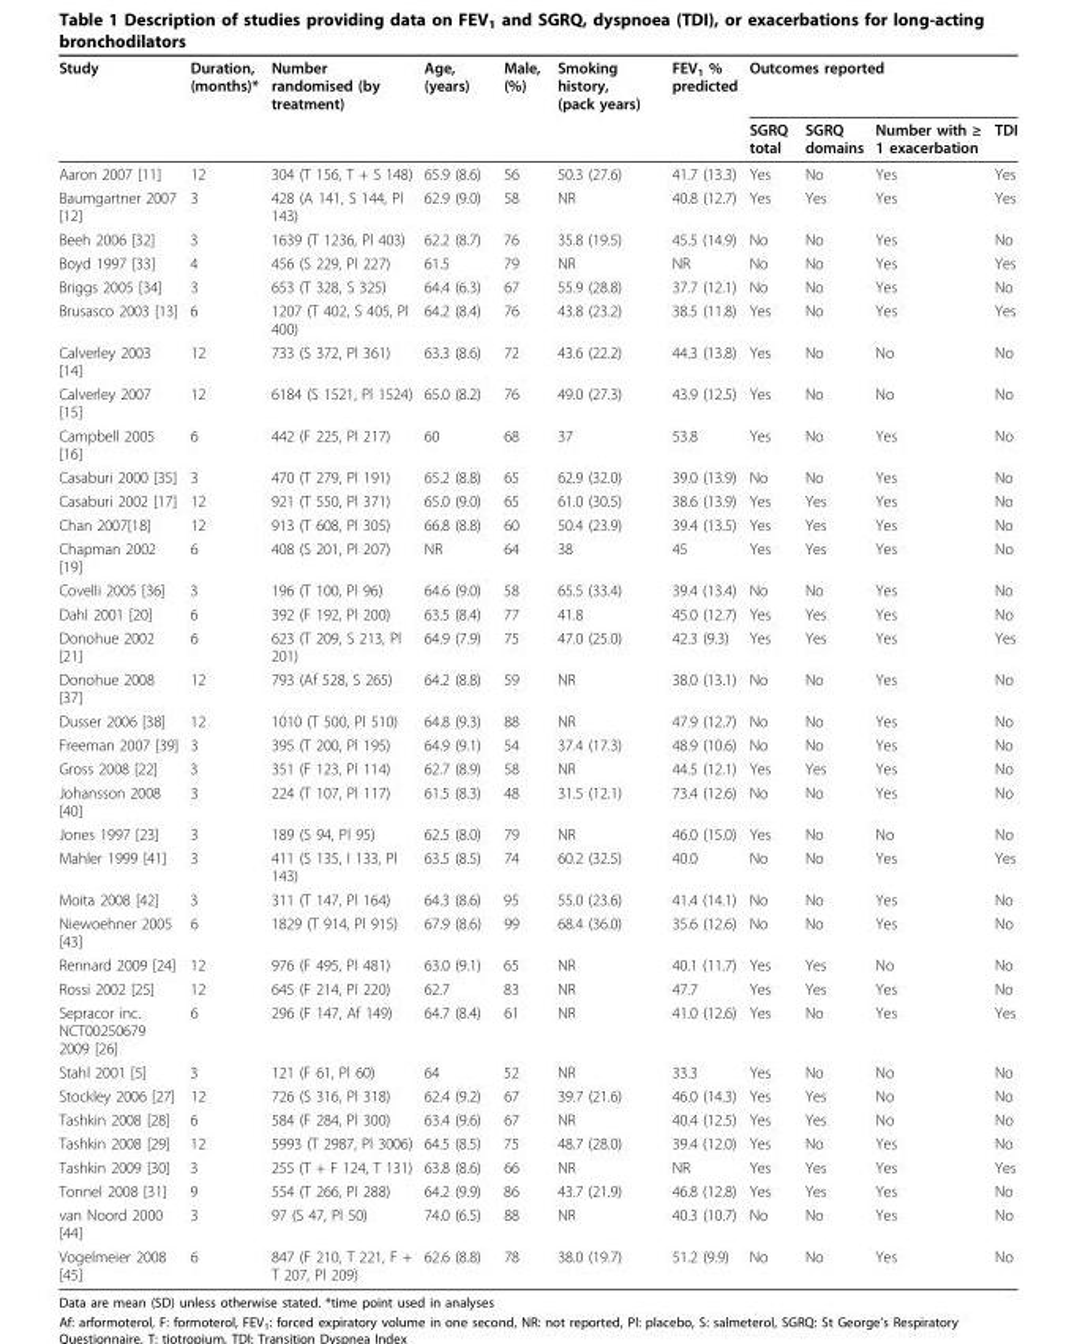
<table><thead><tr><td rowspan="2">Study</td><td rowspan="2">Duration, (months)*</td><td rowspan="2">Number randomised (by treatment)</td><td rowspan="2">Age, (years)</td><td rowspan="2">Male, (%)</td><td rowspan="2">Smoking history, (pack years)</td><td rowspan="2">FEV<sub>1</sub> % predicted</td><td colspan="4">Outcomes reported</td></tr><tr><td>SGRQ total</td><td>SGRQ domains</td><td>Number with ≥ 1 exacerbation</td><td>TDI</td></tr></thead><tbody><tr><td>Aaron 2007 [11]</td><td>12</td><td>304 (T 156, T + S 148)</td><td>65.9 (8.6)</td><td>56</td><td>50.3 (27.6)</td><td>41.7 (13.3)</td><td>Yes</td><td>No</td><td>Yes</td><td>Yes</td></tr><tr><td>Baumgartner 2007 [12]</td><td>3</td><td>428 (A 141, S 144, Pl 143)</td><td>62.9 (9.0)</td><td>58</td><td>NR</td><td>40.8 (12.7)</td><td>Yes</td><td>Yes</td><td>Yes</td><td>Yes</td></tr><tr><td>Beeh 2006 [32]</td><td>3</td><td>1639 (T 1236, Pl 403)</td><td>62.2 (8.7)</td><td>76</td><td>35.8 (19.5)</td><td>45.5 (14.9)</td><td>No</td><td>No</td><td>Yes</td><td>No</td></tr><tr><td>Boyd 1997 [33]</td><td>4</td><td>456 (S 229, Pl 227)</td><td>61.5</td><td>79</td><td>NR</td><td>NR</td><td>No</td><td>No</td><td>Yes</td><td>Yes</td></tr><tr><td>Briggs 2005 [34]</td><td>3</td><td>653 (T 328, S 325)</td><td>64.4 (6.3)</td><td>67</td><td>55.9 (28.8)</td><td>37.7 (12.1)</td><td>No</td><td>No</td><td>Yes</td><td>No</td></tr><tr><td>Brusasco 2003 [13]</td><td>6</td><td>1207 (T 402, S 405, Pl 400)</td><td>64.2 (8.4)</td><td>76</td><td>43.8 (23.2)</td><td>38.5 (11.8)</td><td>Yes</td><td>No</td><td>Yes</td><td>Yes</td></tr><tr><td>Calverley 2003 [14]</td><td>12</td><td>733 (S 372, Pl 361)</td><td>63.3 (8.6)</td><td>72</td><td>43.6 (22.2)</td><td>44.3 (13.8)</td><td>Yes</td><td>No</td><td>No</td><td>No</td></tr><tr><td>Calverley 2007 [15]</td><td>12</td><td>6184 (S 1521, Pl 1524)</td><td>65.0 (8.2)</td><td>76</td><td>49.0 (27.3)</td><td>43.9 (12.5)</td><td>Yes</td><td>No</td><td>No</td><td>No</td></tr><tr><td>Campbell 2005 [16]</td><td>6</td><td>442 (F 225, Pl 217)</td><td>60</td><td>68</td><td>37</td><td>53.8</td><td>Yes</td><td>No</td><td>Yes</td><td>No</td></tr><tr><td>Casaburi 2000 [35]</td><td>3</td><td>470 (T 279, Pl 191)</td><td>65.2 (8.8)</td><td>65</td><td>62.9 (32.0)</td><td>39.0 (13.9)</td><td>No</td><td>No</td><td>Yes</td><td>No</td></tr><tr><td>Casaburi 2002 [17]</td><td>12</td><td>921 (T 550, Pl 371)</td><td>65.0 (9.0)</td><td>65</td><td>61.0 (30.5)</td><td>38.6 (13.9)</td><td>Yes</td><td>Yes</td><td>Yes</td><td>No</td></tr><tr><td>Chan 2007[18]</td><td>12</td><td>913 (T 608, Pl 305)</td><td>66.8 (8.8)</td><td>60</td><td>50.4 (23.9)</td><td>39.4 (13.5)</td><td>Yes</td><td>Yes</td><td>Yes</td><td>No</td></tr><tr><td>Chapman 2002 [19]</td><td>6</td><td>408 (S 201, Pl 207)</td><td>NR</td><td>64</td><td>38</td><td>45</td><td>Yes</td><td>Yes</td><td>Yes</td><td>No</td></tr><tr><td>Covelli 2005 [36]</td><td>3</td><td>196 (T 100, Pl 96)</td><td>64.6 (9.0)</td><td>58</td><td>65.5 (33.4)</td><td>39.4 (13.4)</td><td>No</td><td>No</td><td>Yes</td><td>No</td></tr><tr><td>Dahl 2001 [20]</td><td>6</td><td>392 (F 192, Pl 200)</td><td>63.5 (8.4)</td><td>77</td><td>41.8</td><td>45.0 (12.7)</td><td>Yes</td><td>Yes</td><td>Yes</td><td>No</td></tr><tr><td>Donohue 2002 [21]</td><td>6</td><td>623 (T 209, S 213, Pl 201)</td><td>64.9 (7.9)</td><td>75</td><td>47.0 (25.0)</td><td>42.3 (9.3)</td><td>Yes</td><td>Yes</td><td>Yes</td><td>Yes</td></tr><tr><td>Donohue 2008 [37]</td><td>12</td><td>793 (Af 528, S 265)</td><td>64.2 (8.8)</td><td>59</td><td>NR</td><td>38.0 (13.1)</td><td>No</td><td>No</td><td>Yes</td><td>No</td></tr><tr><td>Dusser 2006 [38]</td><td>12</td><td>1010 (T 500, Pl 510)</td><td>64.8 (9.3)</td><td>88</td><td>NR</td><td>47.9 (12.7)</td><td>No</td><td>No</td><td>Yes</td><td>No</td></tr><tr><td>Freeman 2007 [39]</td><td>3</td><td>395 (T 200, Pl 195)</td><td>64.9 (9.1)</td><td>54</td><td>37.4 (17.3)</td><td>48.9 (10.6)</td><td>No</td><td>No</td><td>Yes</td><td>No</td></tr><tr><td>Gross 2008 [22]</td><td>3</td><td>351 (F 123, Pl 114)</td><td>62.7 (8.9)</td><td>58</td><td>NR</td><td>44.5 (12.1)</td><td>Yes</td><td>Yes</td><td>Yes</td><td>No</td></tr><tr><td>Johansson 2008 [40]</td><td>3</td><td>224 (T 107, Pl 117)</td><td>61.5 (8.3)</td><td>48</td><td>31.5 (12.1)</td><td>73.4 (12.6)</td><td>No</td><td>No</td><td>Yes</td><td>No</td></tr><tr><td>Jones 1997 [23]</td><td>3</td><td>189 (S 94, Pl 95)</td><td>62.5 (8.0)</td><td>79</td><td>NR</td><td>46.0 (15.0)</td><td>Yes</td><td>No</td><td>No</td><td>No</td></tr><tr><td>Mahler 1999 [41]</td><td>3</td><td>411 (S 135, I 133, Pl 143)</td><td>63.5 (8.5)</td><td>74</td><td>60.2 (32.5)</td><td>40.0</td><td>No</td><td>No</td><td>Yes</td><td>Yes</td></tr><tr><td>Moita 2008 [42]</td><td>3</td><td>311 (T 147, Pl 164)</td><td>64.3 (8.6)</td><td>95</td><td>55.0 (23.6)</td><td>41.4 (14.1)</td><td>No</td><td>No</td><td>Yes</td><td>No</td></tr><tr><td>Niewoehner 2005 [43]</td><td>6</td><td>1829 (T 914, Pl 915)</td><td>67.9 (8.6)</td><td>99</td><td>68.4 (36.0)</td><td>35.6 (12.6)</td><td>No</td><td>No</td><td>Yes</td><td>No</td></tr><tr><td>Rennard 2009 [24]</td><td>12</td><td>976 (F 495, Pl 481)</td><td>63.0 (9.1)</td><td>65</td><td>NR</td><td>40.1 (11.7)</td><td>Yes</td><td>Yes</td><td>No</td><td>No</td></tr><tr><td>Rossi 2002 [25]</td><td>12</td><td>645 (F 214, Pl 220)</td><td>62.7</td><td>83</td><td>NR</td><td>47.7</td><td>Yes</td><td>Yes</td><td>Yes</td><td>No</td></tr><tr><td>Sepracor inc. NCT00250679 2009 [26]</td><td>6</td><td>296 (F 147, Af 149)</td><td>64.7 (8.4)</td><td>61</td><td>NR</td><td>41.0 (12.6)</td><td>Yes</td><td>No</td><td>Yes</td><td>Yes</td></tr><tr><td>Stahl 2001 [5]</td><td>3</td><td>121 (F 61, Pl 60)</td><td>64</td><td>52</td><td>NR</td><td>33.3</td><td>Yes</td><td>No</td><td>No</td><td>No</td></tr><tr><td>Stockley 2006 [27]</td><td>12</td><td>726 (S 316, Pl 318)</td><td>62.4 (9.2)</td><td>67</td><td>39.7 (21.6)</td><td>46.0 (14.3)</td><td>Yes</td><td>Yes</td><td>No</td><td>No</td></tr><tr><td>Tashkin 2008 [28]</td><td>6</td><td>584 (F 284, Pl 300)</td><td>63.4 (9.6)</td><td>67</td><td>NR</td><td>40.4 (12.5)</td><td>Yes</td><td>Yes</td><td>No</td><td>No</td></tr><tr><td>Tashkin 2008 [29]</td><td>12</td><td>5993 (T 2987, Pl 3006)</td><td>64.5 (8.5)</td><td>75</td><td>48.7 (28.0)</td><td>39.4 (12.0)</td><td>Yes</td><td>No</td><td>Yes</td><td>No</td></tr><tr><td>Tashkin 2009 [30]</td><td>3</td><td>255 (T + F 124, T 131)</td><td>63.8 (8.6)</td><td>66</td><td>NR</td><td>NR</td><td>Yes</td><td>Yes</td><td>Yes</td><td>Yes</td></tr><tr><td>Tonnel 2008 [31]</td><td>9</td><td>554 (T 266, Pl 288)</td><td>64.2 (9.9)</td><td>86</td><td>43.7 (21.9)</td><td>46.8 (12.8)</td><td>Yes</td><td>Yes</td><td>Yes</td><td>No</td></tr><tr><td>van Noord 2000 [44]</td><td>3</td><td>97 (S 47, Pl 50)</td><td>74.0 (6.5)</td><td>88</td><td>NR</td><td>40.3 (10.7)</td><td>No</td><td>No</td><td>Yes</td><td>No</td></tr><tr><td>Vogelmeier 2008 [45]</td><td>6</td><td>847 (F 210, T 221, F + T 207, Pl 209)</td><td>62.6 (8.8)</td><td>78</td><td>38.0 (19.7)</td><td>51.2 (9.9)</td><td>No</td><td>No</td><td>Yes</td><td>No</td></tr></tbody></table>